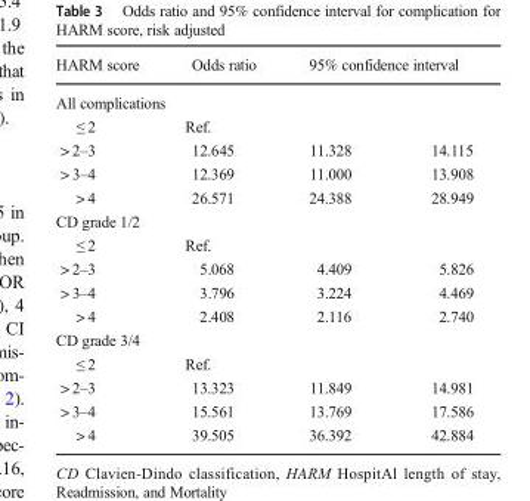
<table><thead><tr><td>HARM score</td><td>Odds ratio</td><td colspan="2">95% confidence interval</td></tr><tr><td colspan="4">All complications</td></tr><tr><td rowspan="2">≤ 2 &gt; 2–3</td><td colspan="3">Ref.</td></tr><tr><td>12.645</td><td>11.328</td><td>14.115</td></tr></thead><tbody><tr><td>&gt; 3–4</td><td>12.369</td><td>11.000</td><td>13.908</td></tr><tr><td>&gt; 4</td><td>26.571</td><td>24.388</td><td>28.949</td></tr><tr><td colspan="4">CD grade 1/2</td></tr><tr><td>≤ 2</td><td colspan="3">Ref.</td></tr><tr><td>&gt; 2–3</td><td>5.068</td><td>4.409</td><td>5.826</td></tr><tr><td>&gt; 3–4</td><td>3.796</td><td>3.224</td><td>4.469</td></tr><tr><td>&gt; 4</td><td>2.408</td><td>2.116</td><td>2.740</td></tr><tr><td colspan="4">CD grade 3/4</td></tr><tr><td>≤ 2</td><td colspan="3">Ref.</td></tr><tr><td>&gt; 2–3</td><td>13.323</td><td>11.849</td><td>14.981</td></tr><tr><td>&gt; 3–4</td><td>15.561</td><td>13.769</td><td>17.586</td></tr><tr><td>&gt; 4</td><td>39.505</td><td>36.392</td><td>42.884</td></tr></tbody></table>